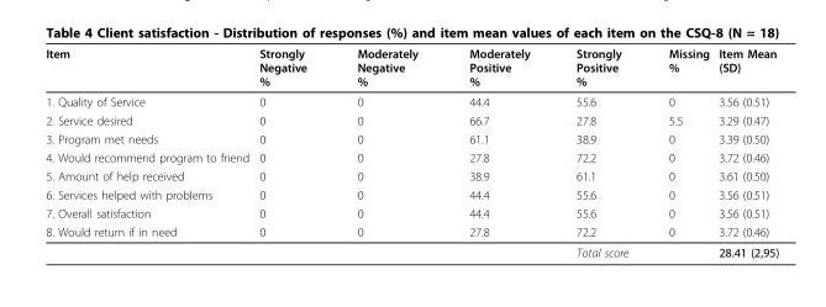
<table><thead><tr><td>Item</td><td>Strongly Negative %</td><td>Moderately Negative %</td><td>Moderately Positive %</td><td>Strongly Positive %</td><td>Missing %</td><td>Item Mean (SD)</td></tr></thead><tbody><tr><td>1. Quality of Service</td><td>0</td><td>0</td><td>44.4</td><td>55.6</td><td>0</td><td>3.56 (0.51)</td></tr><tr><td>2. Service desired</td><td>0</td><td>0</td><td>66.7</td><td>27.8</td><td>5.5</td><td>3.29 (0.47)</td></tr><tr><td>3. Program met needs</td><td>0</td><td>0</td><td>61.1</td><td>38.9</td><td>0</td><td>3.39 (0.50)</td></tr><tr><td>4. Would recommend program to friend</td><td>0</td><td>0</td><td>27.8</td><td>72.2</td><td>0</td><td>3.72 (0.46)</td></tr><tr><td>5. Amount of help received</td><td>0</td><td>0</td><td>38.9</td><td>61.1</td><td>0</td><td>3.61 (0.50)</td></tr><tr><td>6. Services helped with problems</td><td>0</td><td>0</td><td>44.4</td><td>55.6</td><td>0</td><td>3.56 (0.51)</td></tr><tr><td>7. Overall satisfaction</td><td>0</td><td>0</td><td>44.4</td><td>55.6</td><td>0</td><td>3.56 (0.51)</td></tr><tr><td rowspan="2">8. Would return if in need</td><td>0</td><td>0</td><td>27.8</td><td>72.2</td><td>0</td><td>3.72 (0.46)</td></tr><tr><td></td><td></td><td></td><td colspan="2">Total score</td><td>28.41 (2,95)</td></tr></tbody></table>